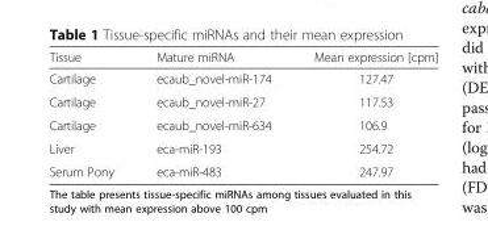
<table><thead><tr><td>Tissue</td><td>Mature miRNA</td><td>Mean expression [cpm]</td></tr></thead><tbody><tr><td>Cartilage</td><td>ecaub_novel-miR-174</td><td>127.47</td></tr><tr><td>Cartilage</td><td>ecaub_novel-miR-27</td><td>117.53</td></tr><tr><td>Cartilage</td><td>ecaub_novel-miR-634</td><td>106.9</td></tr><tr><td>Liver</td><td>eca-miR-193</td><td>254.72</td></tr><tr><td>Serum Pony</td><td>eca-miR-483</td><td>247.97</td></tr></tbody></table>